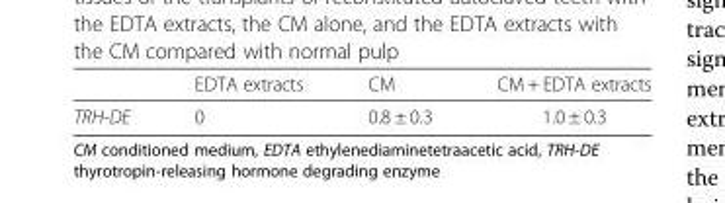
<table><thead><tr><td></td><td>EDTA extracts</td><td>CM</td><td>CM + EDTA extracts</td></tr></thead><tbody><tr><td>TRH-DE</td><td>0</td><td>0.8 ± 0.3</td><td>1.0 ± 0.3</td></tr></tbody></table>